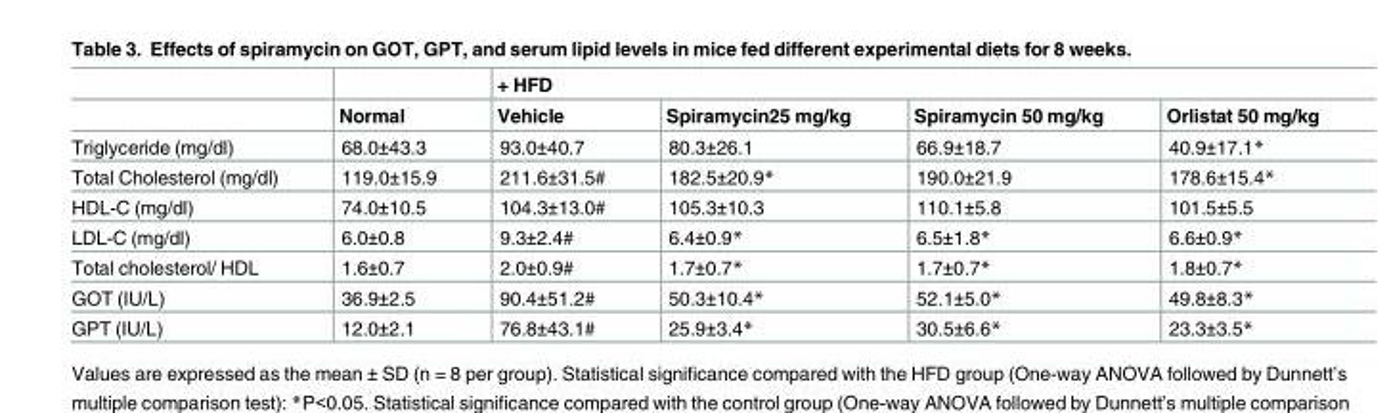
<table><thead><tr><td rowspan="2"></td><td rowspan="2">Normal</td><td colspan="4">+ HFD</td></tr><tr><td>Vehicle</td><td>Spiramycin25 mg/kg</td><td>Spiramycin 50 mg/kg</td><td>Orlistat 50 mg/kg</td></tr></thead><tbody><tr><td>Triglyceride (mg/dl)</td><td>68.0±43.3</td><td>93.0±40.7</td><td>80.3±26.1</td><td>66.9±18.7</td><td>40.9±17.1*</td></tr><tr><td>Total Cholesterol (mg/dl)</td><td>119.0±15.9</td><td>211.6±31.5#</td><td>182.5±20.9*</td><td>190.0±21.9</td><td>178.6±15.4*</td></tr><tr><td>HDL-C (mg/dl)</td><td>74.0±10.5</td><td>104.3±13.0#</td><td>105.3±10.3</td><td>110.1±5.8</td><td>101.5±5.5</td></tr><tr><td>LDL-C (mg/dl)</td><td>6.0±0.8</td><td>9.3±2.4#</td><td>6.4±0.9*</td><td>6.5±1.8*</td><td>6.6±0.9*</td></tr><tr><td>Total cholesterol/ HDL</td><td>1.6±0.7</td><td>2.0±0.9#</td><td>1.7±0.7*</td><td>1.7±0.7*</td><td>1.8±0.7*</td></tr><tr><td>GOT (IU/L)</td><td>36.9±2.5</td><td>90.4±51.2#</td><td>50.3±10.4*</td><td>52.1±5.0*</td><td>49.8±8.3*</td></tr><tr><td>GPT (IU/L)</td><td>12.0±2.1</td><td>76.8±43.1#</td><td>25.9±3.4*</td><td>30.5±6.6*</td><td>23.3±3.5*</td></tr></tbody></table>